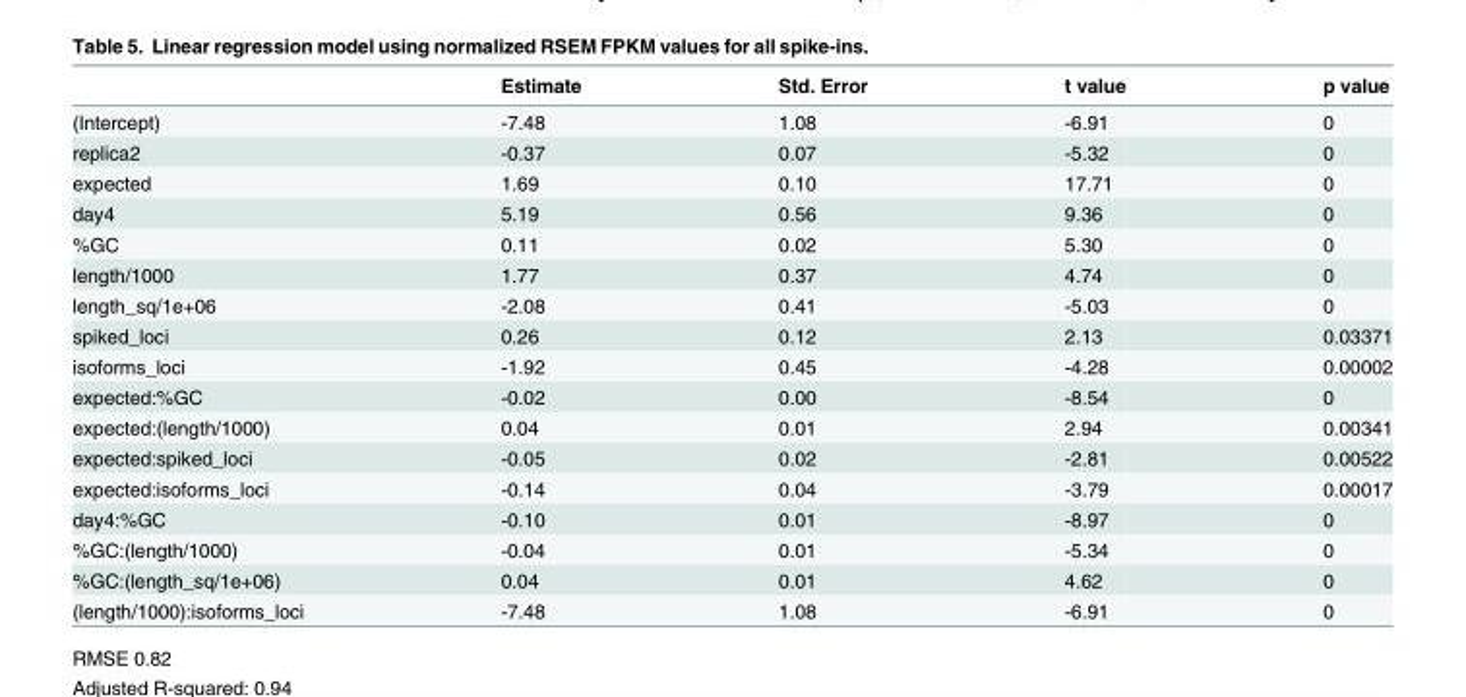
<table><thead><tr><td></td><td>Estimate</td><td>Std. Error</td><td>t value</td><td>p value</td></tr></thead><tbody><tr><td>(Intercept)</td><td>-7.48</td><td>1.08</td><td>-6.91</td><td>0</td></tr><tr><td>replica2</td><td>-0.37</td><td>0.07</td><td>-5.32</td><td>0</td></tr><tr><td>expected</td><td>1.69</td><td>0.10</td><td>17.71</td><td>0</td></tr><tr><td>day4</td><td>5.19</td><td>0.56</td><td>9.36</td><td>0</td></tr><tr><td>%GC</td><td>0.11</td><td>0.02</td><td>5.30</td><td>0</td></tr><tr><td>length/1000</td><td>1.77</td><td>0.37</td><td>4.74</td><td>0</td></tr><tr><td>length_sq/1e+06</td><td>-2.08</td><td>0.41</td><td>-5.03</td><td>0</td></tr><tr><td>spiked_loci</td><td>0.26</td><td>0.12</td><td>2.13</td><td>0.03371</td></tr><tr><td>isoforms_loci</td><td>-1.92</td><td>0.45</td><td>-4.28</td><td>0.00002</td></tr><tr><td>expected:%GC</td><td>-0.02</td><td>0.00</td><td>-8.54</td><td>0</td></tr><tr><td>expected:(length/1000)</td><td>0.04</td><td>0.01</td><td>2.94</td><td>0.00341</td></tr><tr><td>expected:spiked_loci</td><td>-0.05</td><td>0.02</td><td>-2.81</td><td>0.00522</td></tr><tr><td>expected:isoforms_loci</td><td>-0.14</td><td>0.04</td><td>-3.79</td><td>0.00017</td></tr><tr><td>day4:%GC</td><td>-0.10</td><td>0.01</td><td>-8.97</td><td>0</td></tr><tr><td>%GC:(length/1000)</td><td>-0.04</td><td>0.01</td><td>-5.34</td><td>0</td></tr><tr><td>%GC:(length_sq/1e+06)</td><td>0.04</td><td>0.01</td><td>4.62</td><td>0</td></tr><tr><td>(length/1000):isoforms_loci</td><td>-7.48</td><td>1.08</td><td>-6.91</td><td>0</td></tr></tbody></table>